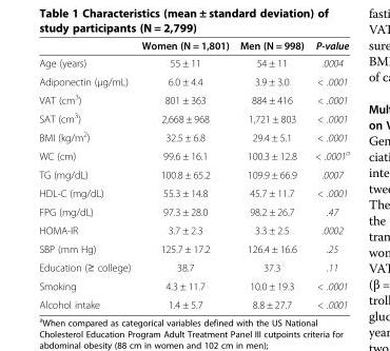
<table><thead><tr><td></td><td>Women (N = 1,801)</td><td>Men (N = 998)</td><td>P-value</td></tr></thead><tbody><tr><td>Age (years)</td><td>55 ± 11</td><td>54 ± 11</td><td>.0004</td></tr><tr><td>Adiponectin (μg/mL)</td><td>6.0 ± 4.4</td><td>3.9 ± 3.0</td><td>&lt; .0001</td></tr><tr><td>VAT (cm<sup>3</sup>)</td><td>801 ± 363</td><td>884 ± 416</td><td>&lt; .0001</td></tr><tr><td>SAT (cm<sup>3</sup>)</td><td>2,668 ± 968</td><td>1,721 ± 803</td><td>&lt; .0001</td></tr><tr><td>BMI (kg/m<sup>2</sup>)</td><td>32.5 ± 6.8</td><td>29.4 ± 5.1</td><td>&lt; .0001</td></tr><tr><td>WC (cm)</td><td>99.6 ± 16.1</td><td>100.3 ± 12.8</td><td>&lt; .0001<sup>a</sup></td></tr><tr><td>TG (mg/dL)</td><td>100.8 ± 65.2</td><td>109.9 ± 66.9</td><td>.0007</td></tr><tr><td>HDL-C (mg/dL)</td><td>55.3 ± 14.8</td><td>45.7 ± 11.7</td><td>&lt; .0001</td></tr><tr><td>FPG (mg/dL)</td><td>97.3 ± 28.0</td><td>98.2 ± 26.7</td><td>.47</td></tr><tr><td>HOMA-IR</td><td>3.7 ± 2.3</td><td>3.3 ± 2.5</td><td>.0002</td></tr><tr><td>SBP (mm Hg)</td><td>125.7 ± 17.2</td><td>126.4 ± 16.6</td><td>.25</td></tr><tr><td>Education (≥ college)</td><td>38.7</td><td>37.3</td><td>.11</td></tr><tr><td>Smoking</td><td>4.3 ± 11.7</td><td>10.0 ± 19.3</td><td>&lt; .0001</td></tr><tr><td>Alcohol intake</td><td>1.4 ± 5.7</td><td>8.8 ± 27.7</td><td>&lt; .0001</td></tr></tbody></table>